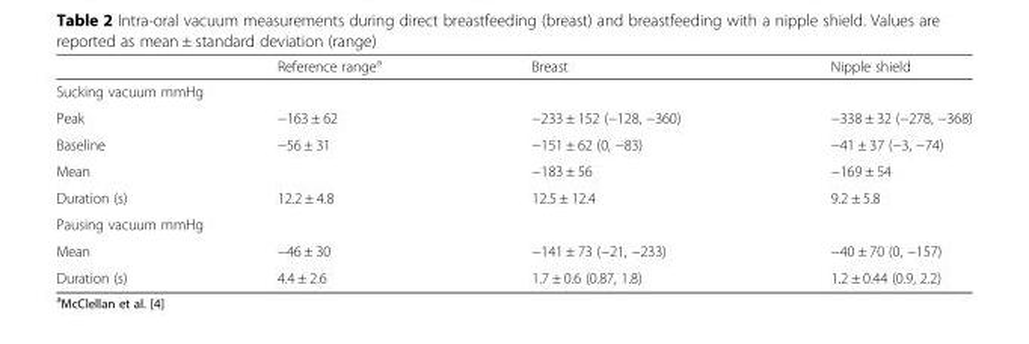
<table><thead><tr><td></td><td>Reference range<sup>a</sup></td><td>Breast</td><td>Nipple shield</td></tr></thead><tbody><tr><td colspan="4">Sucking vacuum mmHg</td></tr><tr><td>Peak</td><td>−163 ± 62</td><td>−233 ± 152 (−128, −360)</td><td>−338 ± 32 (−278, −368)</td></tr><tr><td>Baseline</td><td>−56 ± 31</td><td>−151 ± 62 (0, −83)</td><td>−41 ± 37 (−3, −74)</td></tr><tr><td>Mean</td><td></td><td>−183 ± 56</td><td>−169 ± 54</td></tr><tr><td>Duration (s)</td><td>12.2 ± 4.8</td><td>12.5 ± 12.4</td><td>9.2 ± 5.8</td></tr><tr><td colspan="4">Pausing vacuum mmHg</td></tr><tr><td>Mean</td><td>−46 ± 30</td><td>−141 ± 73 (−21, −233)</td><td>−40 ± 70 (0, −157)</td></tr><tr><td>Duration (s)</td><td>4.4 ± 2.6</td><td>1.7 ± 0.6 (0.87, 1.8)</td><td>1.2 ± 0.44 (0.9, 2.2)</td></tr></tbody></table>